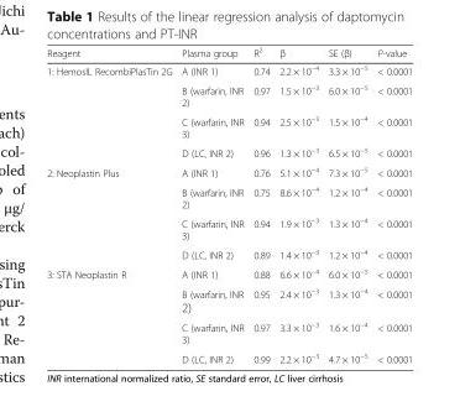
<table><thead><tr><td>Reagent</td><td>Plasma group</td><td>R<sup>2</sup></td><td>β</td><td>SE (β)</td><td>P-value</td></tr></thead><tbody><tr><td rowspan="4">1: HemosIL RecombiPlasTin 2G</td><td>A (INR 1)</td><td>0.74</td><td>2.2 × 10<sup>−4</sup></td><td>3.3 × 10<sup>−5</sup></td><td>&lt; 0.0001</td></tr><tr><td>B (warfarin, INR 2)</td><td>0.97</td><td>1.5 × 10<sup>−3</sup></td><td>6.0 × 10<sup>−5</sup></td><td>&lt; 0.0001</td></tr><tr><td>C (warfarin, INR 3)</td><td>0.94</td><td>2.5 × 10<sup>−3</sup></td><td>1.5 × 10<sup>−4</sup></td><td>&lt; 0.0001</td></tr><tr><td>D (LC, INR 2)</td><td>0.96</td><td>1.3 × 10<sup>−3</sup></td><td>6.5 × 10<sup>−5</sup></td><td>&lt; 0.0001</td></tr><tr><td rowspan="4">2: Neoplastin Plus</td><td>A (INR 1)</td><td>0.76</td><td>5.1 × 10<sup>−4</sup></td><td>7.3 × 10<sup>−5</sup></td><td>&lt; 0.0001</td></tr><tr><td>B (warfarin, INR 2)</td><td>0.75</td><td>8.6 × 10<sup>−4</sup></td><td>1.2 × 10<sup>−4</sup></td><td>&lt; 0.0001</td></tr><tr><td>C (warfarin, INR 3)</td><td>0.94</td><td>1.9 × 10<sup>−3</sup></td><td>1.3 × 10<sup>−4</sup></td><td>&lt; 0.0001</td></tr><tr><td>D (LC, INR 2)</td><td>0.89</td><td>1.4 × 10<sup>−3</sup></td><td>1.2 × 10<sup>−4</sup></td><td>&lt; 0.0001</td></tr><tr><td rowspan="4">3: STA Neoplastin R</td><td>A (INR 1)</td><td>0.88</td><td>6.6 × 10<sup>−4</sup></td><td>6.0 × 10<sup>−5</sup></td><td>&lt; 0.0001</td></tr><tr><td>B (warfarin, INR 2)</td><td>0.95</td><td>2.4 × 10<sup>−3</sup></td><td>1.3 × 10<sup>−4</sup></td><td>&lt; 0.0001</td></tr><tr><td>C (warfarin, INR 3)</td><td>0.97</td><td>3.3 × 10<sup>−3</sup></td><td>1.6 × 10<sup>−4</sup></td><td>&lt; 0.0001</td></tr><tr><td>D (LC, INR 2)</td><td>0.99</td><td>2.2 × 10<sup>−3</sup></td><td>4.7 × 10<sup>−5</sup></td><td>&lt; 0.0001</td></tr></tbody></table>